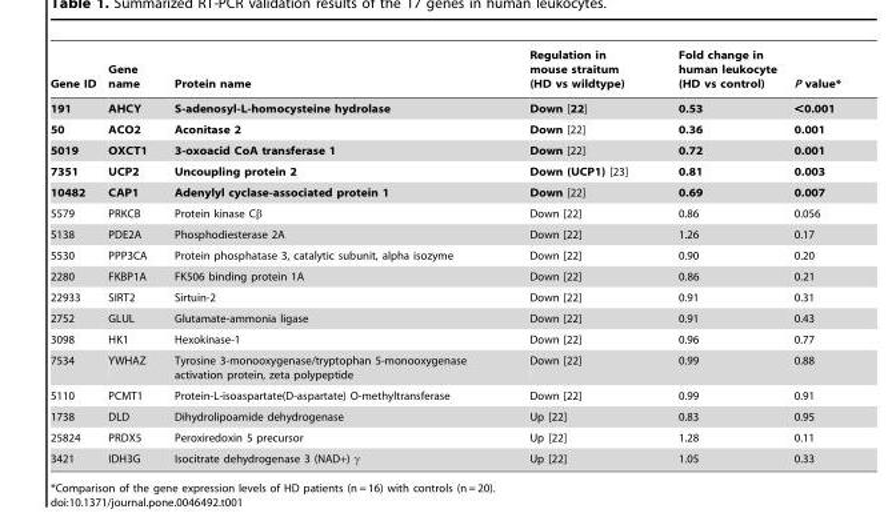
<table><thead><tr><td>Gene ID</td><td>Gene name</td><td>Protein name</td><td>Regulation in mouse straitum (HD vs wildtype)</td><td>Fold change in human leukocyte (HD vs control)</td><td>P value*</td></tr></thead><tbody><tr><td>191</td><td>AHCY</td><td>S-adenosyl-L-homocysteine hydrolase</td><td>Down [22]</td><td>0.53</td><td>&lt;0.001</td></tr><tr><td>50</td><td>ACO2</td><td>Aconitase 2</td><td>Down [22]</td><td>0.36</td><td>0.001</td></tr><tr><td>5019</td><td>OXCT1</td><td>3-oxoacid CoA transferase 1</td><td>Down [22]</td><td>0.72</td><td>0.001</td></tr><tr><td>7351</td><td>UCP2</td><td>Uncoupling protein 2</td><td>Down (UCP1) [23]</td><td>0.81</td><td>0.003</td></tr><tr><td>10482</td><td>CAP1</td><td>Adenylyl cyclase-associated protein 1</td><td>Down [22]</td><td>0.69</td><td>0.007</td></tr><tr><td>5579</td><td>PRKCB</td><td>Protein kinase Cβ</td><td>Down [22]</td><td>0.86</td><td>0.056</td></tr><tr><td>5138</td><td>PDE2A</td><td>Phosphodiesterase 2A</td><td>Down [22]</td><td>1.26</td><td>0.17</td></tr><tr><td>5530</td><td>PPP3CA</td><td>Protein phosphatase 3, catalytic subunit, alpha isozyme</td><td>Down [22]</td><td>0.90</td><td>0.20</td></tr><tr><td>2280</td><td>FKBP1A</td><td>FK506 binding protein 1A</td><td>Down [22]</td><td>0.86</td><td>0.21</td></tr><tr><td>22933</td><td>SIRT2</td><td>Sirtuin-2</td><td>Down [22]</td><td>0.91</td><td>0.31</td></tr><tr><td>2752</td><td>GLUL</td><td>Glutamate-ammonia ligase</td><td>Down [22]</td><td>0.91</td><td>0.43</td></tr><tr><td>3098</td><td>HK1</td><td>Hexokinase-1</td><td>Down [22]</td><td>0.96</td><td>0.77</td></tr><tr><td>7534</td><td>YWHAZ</td><td>Tyrosine 3-monooxygenase/tryptophan 5-monooxygenase activation protein, zeta polypeptide</td><td>Down [22]</td><td>0.99</td><td>0.88</td></tr><tr><td>5110</td><td>PCMT1</td><td>Protein-L-isoaspartate(D-aspartate) O-methyltransferase</td><td>Down [22]</td><td>0.99</td><td>0.91</td></tr><tr><td>1738</td><td>DLD</td><td>Dihydrolipoamide dehydrogenase</td><td>Up [22]</td><td>0.83</td><td>0.95</td></tr><tr><td>25824</td><td>PRDX5</td><td>Peroxiredoxin 5 precursor</td><td>Up [22]</td><td>1.28</td><td>0.11</td></tr><tr><td>3421</td><td>IDH3G</td><td>Isocitrate dehydrogenase 3 (NAD+) γ</td><td>Up [22]</td><td>1.05</td><td>0.33</td></tr></tbody></table>